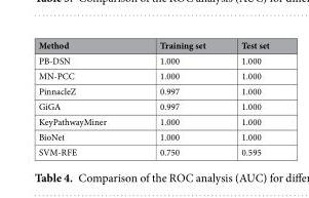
<table><thead><tr><td>Method</td><td>Training set</td><td>Test set</td></tr></thead><tbody><tr><td>PB-DSN</td><td>1.000</td><td>1.000</td></tr><tr><td>MN-PCC</td><td>1.000</td><td>1.000</td></tr><tr><td>PinnacleZ</td><td>0.997</td><td>1.000</td></tr><tr><td>GiGA</td><td>0.997</td><td>1.000</td></tr><tr><td>KeyPathwayMiner</td><td>1.000</td><td>1.000</td></tr><tr><td>BioNet</td><td>1.000</td><td>1.000</td></tr><tr><td>SVM-RFE</td><td>0.750</td><td>0.595</td></tr></tbody></table>